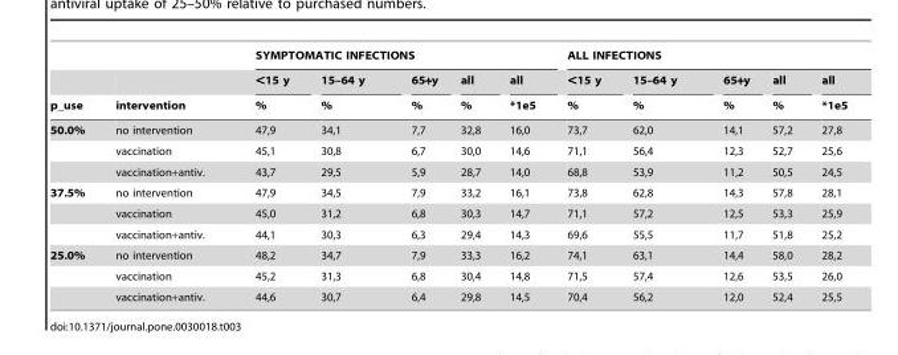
<table><thead><tr><td rowspan="3">p_use</td><td rowspan="3">intervention</td><td colspan="5">SYMPTOMATIC INFECTIONS</td><td colspan="5">ALL INFECTIONS</td></tr><tr><td rowspan="2">&lt;15 y %</td><td rowspan="2">15–64 y %</td><td rowspan="2">65+y %</td><td rowspan="2">all %</td><td rowspan="2">all *1e5</td><td rowspan="2">&lt;15 y %</td><td rowspan="2">15–64 y %</td><td rowspan="2">65+y %</td><td rowspan="2">all %</td><td rowspan="2">all *1e5</td></tr><tr></tr></thead><tbody><tr><td rowspan="3">50.0%</td><td>no intervention</td><td>47,9</td><td>34,1</td><td>7,7</td><td>32,8</td><td>16,0</td><td>73,7</td><td>62,0</td><td>14,1</td><td>57,2</td><td>27,8</td></tr><tr><td>vaccination</td><td>45,1</td><td>30,8</td><td>6,7</td><td>30,0</td><td>14,6</td><td>71,1</td><td>56,4</td><td>12,3</td><td>52,7</td><td>25,6</td></tr><tr><td>vaccination+antiv.</td><td>43,7</td><td>29,5</td><td>5,9</td><td>28,7</td><td>14,0</td><td>68,8</td><td>53,9</td><td>11,2</td><td>50,5</td><td>24,5</td></tr><tr><td rowspan="3">37.5%</td><td>no intervention</td><td>47,9</td><td>34,5</td><td>7,9</td><td>33,2</td><td>16,1</td><td>73,8</td><td>62,8</td><td>14,3</td><td>57,8</td><td>28,1</td></tr><tr><td>vaccination</td><td>45,0</td><td>31,2</td><td>6,8</td><td>30,3</td><td>14,7</td><td>71,1</td><td>57,2</td><td>12,5</td><td>53,3</td><td>25,9</td></tr><tr><td>vaccination+antiv.</td><td>44,1</td><td>30,3</td><td>6,3</td><td>29,4</td><td>14,3</td><td>69,6</td><td>55,5</td><td>11,7</td><td>51,8</td><td>25,2</td></tr><tr><td rowspan="3">25.0%</td><td>no intervention</td><td>48,2</td><td>34,7</td><td>7,9</td><td>33,3</td><td>16,2</td><td>74,1</td><td>63,1</td><td>14,4</td><td>58,0</td><td>28,2</td></tr><tr><td>vaccination</td><td>45,2</td><td>31,3</td><td>6,8</td><td>30,4</td><td>14,8</td><td>71,5</td><td>57,4</td><td>12,6</td><td>53,5</td><td>26,0</td></tr><tr><td>vaccination+antiv.</td><td>44,6</td><td>30,7</td><td>6,4</td><td>29,8</td><td>14,5</td><td>70,4</td><td>56,2</td><td>12,0</td><td>52,4</td><td>25,5</td></tr></tbody></table>